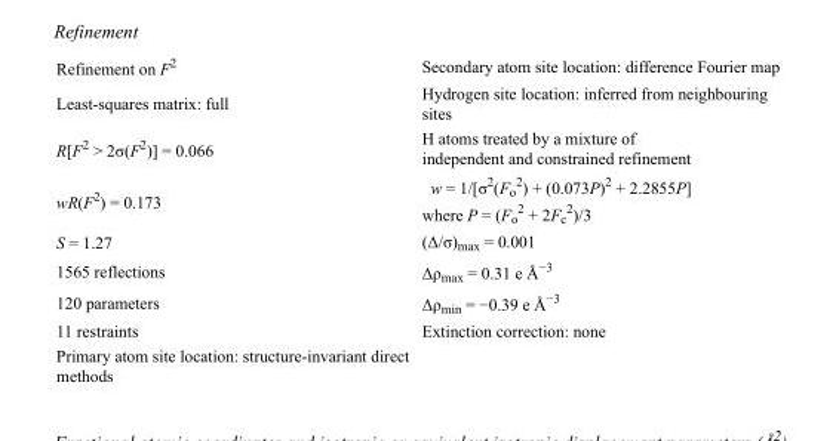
<table><tbody><tr><td>Refinement on F<sup>2</sup></td><td>Secondary atom site location: difference Fourier map</td></tr><tr><td>Least-squares matrix: full</td><td>Hydrogen site location: inferred from neighbouring sites</td></tr><tr><td>R[F<sup>2</sup> &gt; 2σ(F<sup>2</sup>)] = 0.066</td><td>H atoms treated by a mixture of independent and constrained refinement</td></tr><tr><td>wR(F<sup>2</sup>) = 0.173</td><td>w = 1/[σ<sup>2</sup>(F<sub>o</sub> <sup>2</sup>) + (0.073P)<sup>2</sup> + 2.2855P] where P = (F<sub>o</sub> <sup>2</sup> + 2F<sub>c</sub> <sup>2</sup>)/3</td></tr><tr><td>S = 1.27</td><td>(Δ/σ)<sub>max</sub> = 0.001</td></tr><tr><td>1565 reflections</td><td>Δρ<sub>max</sub> = 0.31 e Å<sup>−3</sup></td></tr><tr><td>120 parameters</td><td>Δρ<sub>min</sub> = −0.39 e Å<sup>−3</sup></td></tr><tr><td>11 restraints</td><td>Extinction correction: none</td></tr><tr><td>Primary atom site location: structure-invariant direct methods</td><td></td></tr></tbody></table>